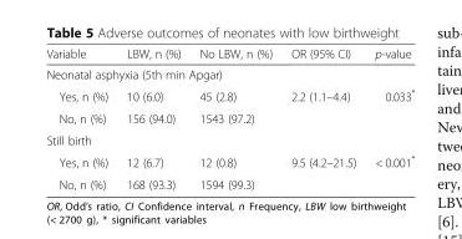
<table><thead><tr><td>Variable</td><td>LBW, n (%)</td><td>No LBW, n (%)</td><td>OR (95% CI)</td><td>p-value</td></tr></thead><tbody><tr><td colspan="5">Neonatal asphyxia (5th min Apgar)</td></tr><tr><td>Yes, n (%)</td><td>10 (6.0)</td><td>45 (2.8)</td><td>2.2 (1.1–4.4)</td><td>0.033*</td></tr><tr><td>No, n (%)</td><td>156 (94.0)</td><td>1543 (97.2)</td><td></td><td></td></tr><tr><td colspan="5">Still birth</td></tr><tr><td>Yes, n (%)</td><td>12 (6.7)</td><td>12 (0.8)</td><td>9.5 (4.2–21.5)</td><td>&lt; 0.001*</td></tr><tr><td>No, n (%)</td><td>168 (93.3)</td><td>1594 (99.3)</td><td></td><td></td></tr></tbody></table>